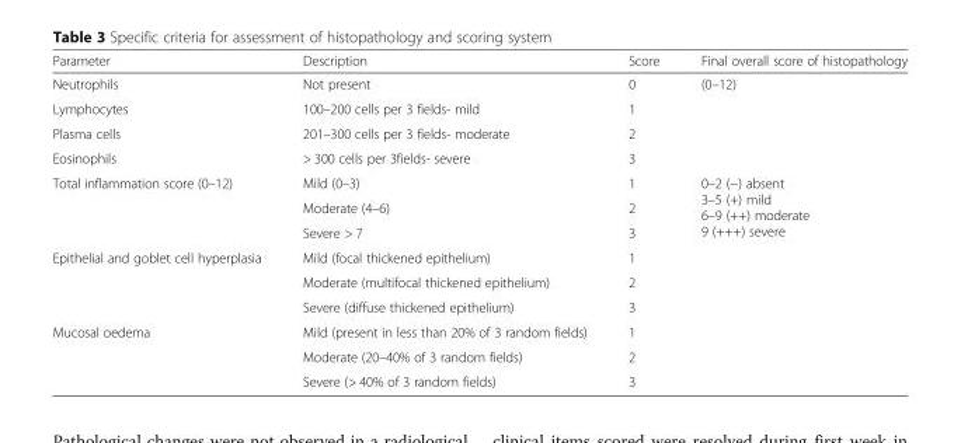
<table><thead><tr><td>Parameter</td><td>Description</td><td>Score</td><td>Final overall score of histopathology</td></tr></thead><tbody><tr><td>Neutrophils</td><td>Not present</td><td>0</td><td rowspan="4">(0–12)</td></tr><tr><td>Lymphocytes</td><td>100–200 cells per 3 fields- mild</td><td>1</td></tr><tr><td>Plasma cells</td><td>201–300 cells per 3 fields- moderate</td><td>2</td></tr><tr><td>Eosinophils</td><td>&gt; 300 cells per 3fields- severe</td><td>3</td></tr><tr><td rowspan="3">Total inflammation score (0–12)</td><td>Mild (0–3)</td><td>1</td><td rowspan="9">0–2 (−) absent 3–5 (+) mild 6–9 (++) moderate 9 (+++) severe</td></tr><tr><td>Moderate (4–6)</td><td>2</td></tr><tr><td>Severe &gt; 7</td><td>3</td></tr><tr><td rowspan="3">Epithelial and goblet cell hyperplasia</td><td>Mild (focal thickened epithelium)</td><td>1</td></tr><tr><td>Moderate (multifocal thickened epithelium)</td><td>2</td></tr><tr><td>Severe (diffuse thickened epithelium)</td><td>3</td></tr><tr><td rowspan="3">Mucosal oedema</td><td>Mild (present in less than 20% of 3 random fields)</td><td>1</td></tr><tr><td>Moderate (20–40% of 3 random fields)</td><td>2</td></tr><tr><td>Severe (&gt; 40% of 3 random fields)</td><td>3</td></tr></tbody></table>